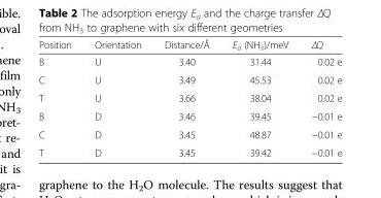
<table><thead><tr><td>Position</td><td>Orientation</td><td>Distance/Å</td><td>E<sub>a</sub> (NH<sub>3</sub>)/meV</td><td>ΔQ</td></tr></thead><tbody><tr><td>B</td><td>U</td><td>3.40</td><td>31.44</td><td>0.02 e</td></tr><tr><td>C</td><td>U</td><td>3.49</td><td>45.53</td><td>0.02 e</td></tr><tr><td>T</td><td>U</td><td>3.66</td><td>38.04</td><td>0.02 e</td></tr><tr><td>B</td><td>D</td><td>3.46</td><td>39.45</td><td>−0.01 e</td></tr><tr><td>C</td><td>D</td><td>3.45</td><td>48.87</td><td>−0.01 e</td></tr><tr><td>T</td><td>D</td><td>3.45</td><td>39.42</td><td>−0.01 e</td></tr></tbody></table>